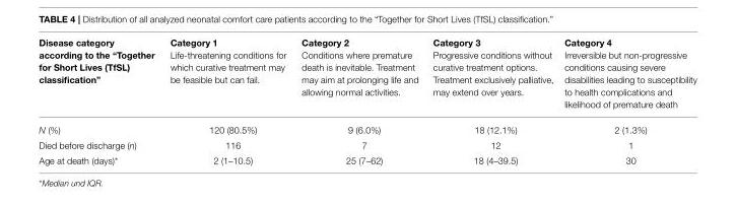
<table><thead><tr><td>Disease category according to the “Together for Short Lives (TfSL) classification”</td><td>Category 1 Life-threatening conditions for which curative treatment may be feasible but can fail.</td><td>Category 2 Conditions where premature death is inevitable. Treatment may aim at prolonging life and allowing normal activities.</td><td>Category 3 Progressive conditions without curative treatment options. Treatment exclusively palliative, may extend over years.</td><td>Category 4 Irreversible but non-progressive conditions causing severe disabilities leading to susceptibility to health complications and likelihood of premature death</td></tr></thead><tbody><tr><td>N (%)</td><td>120 (80.5%)</td><td>9 (6.0%)</td><td>18 (12.1%)</td><td>2 (1.3%)</td></tr><tr><td>Died before discharge (n)</td><td>116</td><td>7</td><td>12</td><td>1</td></tr><tr><td>Age at death (days)*</td><td>2 (1–10.5)</td><td>25 (7–62)</td><td>18 (4–39.5)</td><td>30</td></tr></tbody></table>